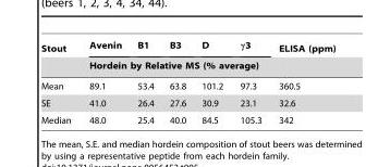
<table><thead><tr><td rowspan="2">Stout</td><td>Avenin</td><td>B1</td><td>B3</td><td>D</td><td>γ3</td><td rowspan="2">ELISA (ppm)</td></tr><tr><td colspan="5">Hordein by Relative MS (% average)</td></tr></thead><tbody><tr><td>Mean</td><td>89.1</td><td>53.4</td><td>63.8</td><td>101.2</td><td>97.3</td><td>360.5</td></tr><tr><td>SE</td><td>41.0</td><td>26.4</td><td>27.6</td><td>30.9</td><td>23.1</td><td>32.6</td></tr><tr><td>Median</td><td>48.0</td><td>25.4</td><td>40.0</td><td>84.5</td><td>105.3</td><td>342</td></tr></tbody></table>